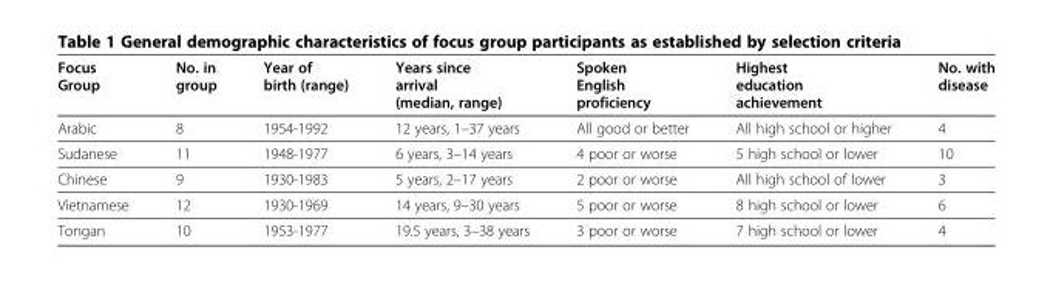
<table><thead><tr><td>Focus Group</td><td>No. in group</td><td>Year of birth (range)</td><td>Years since arrival (median, range)</td><td>Spoken English proficiency</td><td>Highest education achievement</td><td>No. with disease</td></tr></thead><tbody><tr><td>Arabic</td><td>8</td><td>1954-1992</td><td>12 years, 1–37 years</td><td>All good or better</td><td>All high school or higher</td><td>4</td></tr><tr><td>Sudanese</td><td>11</td><td>1948-1977</td><td>6 years, 3–14 years</td><td>4 poor or worse</td><td>5 high school or lower</td><td>10</td></tr><tr><td>Chinese</td><td>9</td><td>1930-1983</td><td>5 years, 2–17 years</td><td>2 poor or worse</td><td>All high school of lower</td><td>3</td></tr><tr><td>Vietnamese</td><td>12</td><td>1930-1969</td><td>14 years, 9–30 years</td><td>5 poor or worse</td><td>8 high school or lower</td><td>6</td></tr><tr><td>Tongan</td><td>10</td><td>1953-1977</td><td>19.5 years, 3–38 years</td><td>3 poor or worse</td><td>7 high school or lower</td><td>4</td></tr></tbody></table>